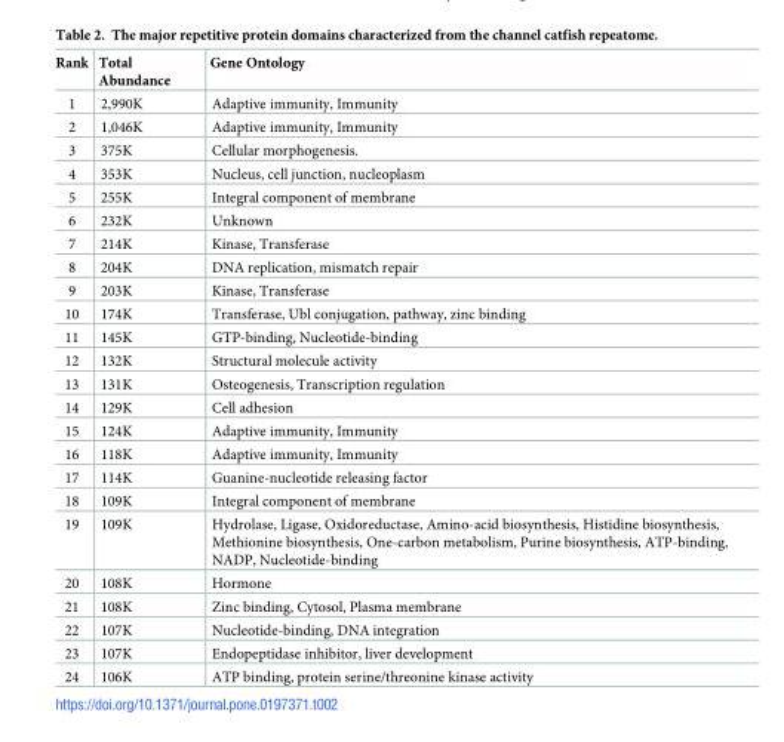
<table><thead><tr><td>Rank</td><td>Total Abundance</td><td>Gene Ontology</td></tr></thead><tbody><tr><td>1</td><td>2,990K</td><td>Adaptive immunity, Immunity</td></tr><tr><td>2</td><td>1,046K</td><td>Adaptive immunity, Immunity</td></tr><tr><td>3</td><td>375K</td><td>Cellular morphogenesis.</td></tr><tr><td>4</td><td>353K</td><td>Nucleus, cell junction, nucleoplasm</td></tr><tr><td>5</td><td>255K</td><td>Integral component of membrane</td></tr><tr><td>6</td><td>232K</td><td>Unknown</td></tr><tr><td>7</td><td>214K</td><td>Kinase, Transferase</td></tr><tr><td>8</td><td>204K</td><td>DNA replication, mismatch repair</td></tr><tr><td>9</td><td>203K</td><td>Kinase, Transferase</td></tr><tr><td>10</td><td>174K</td><td>Transferase, Ubl conjugation, pathway, zinc binding</td></tr><tr><td>11</td><td>145K</td><td>GTP-binding, Nucleotide-binding</td></tr><tr><td>12</td><td>132K</td><td>Structural molecule activity</td></tr><tr><td>13</td><td>131K</td><td>Osteogenesis, Transcription regulation</td></tr><tr><td>14</td><td>129K</td><td>Cell adhesion</td></tr><tr><td>15</td><td>124K</td><td>Adaptive immunity, Immunity</td></tr><tr><td>16</td><td>118K</td><td>Adaptive immunity, Immunity</td></tr><tr><td>17</td><td>114K</td><td>Guanine-nucleotide releasing factor</td></tr><tr><td>18</td><td>109K</td><td>Integral component of membrane</td></tr><tr><td>19</td><td>109K</td><td>Hydrolase, Ligase, Oxidoreductase, Amino-acid biosynthesis, Histidine biosynthesis, Methionine biosynthesis, One-carbon metabolism, Purine biosynthesis, ATP-binding, NADP, Nucleotide-binding</td></tr><tr><td>20</td><td>108K</td><td>Hormone</td></tr><tr><td>21</td><td>108K</td><td>Zinc binding, Cytosol, Plasma membrane</td></tr><tr><td>22</td><td>107K</td><td>Nucleotide-binding, DNA integration</td></tr><tr><td>23</td><td>107K</td><td>Endopeptidase inhibitor, liver development</td></tr><tr><td>24</td><td>106K</td><td>ATP binding, protein serine/threonine kinase activity</td></tr></tbody></table>